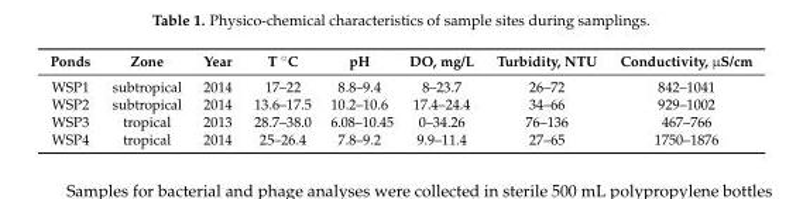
<table><thead><tr><td>Ponds</td><td>Zone</td><td>Year</td><td>T ˝C</td><td>pH</td><td>DO, mg/L</td><td>Turbidity, NTU</td><td>Conductivity, µS/cm</td></tr></thead><tbody><tr><td>WSP1</td><td>subtropical</td><td>2014</td><td>17–22</td><td>8.8–9.4</td><td>8–23.7</td><td>26–72</td><td>842–1041</td></tr><tr><td>WSP2</td><td>subtropical</td><td>2014</td><td>13.6–17.5</td><td>10.2–10.6</td><td>17.4–24.4</td><td>34–66</td><td>929–1002</td></tr><tr><td>WSP3</td><td>tropical</td><td>2013</td><td>28.7–38.0</td><td>6.08–10.45</td><td>0–34.26</td><td>76–136</td><td>467–766</td></tr><tr><td>WSP4</td><td>tropical</td><td>2014</td><td>25–26.4</td><td>7.8–9.2</td><td>9.9–11.4</td><td>27–65</td><td>1750–1876</td></tr></tbody></table>